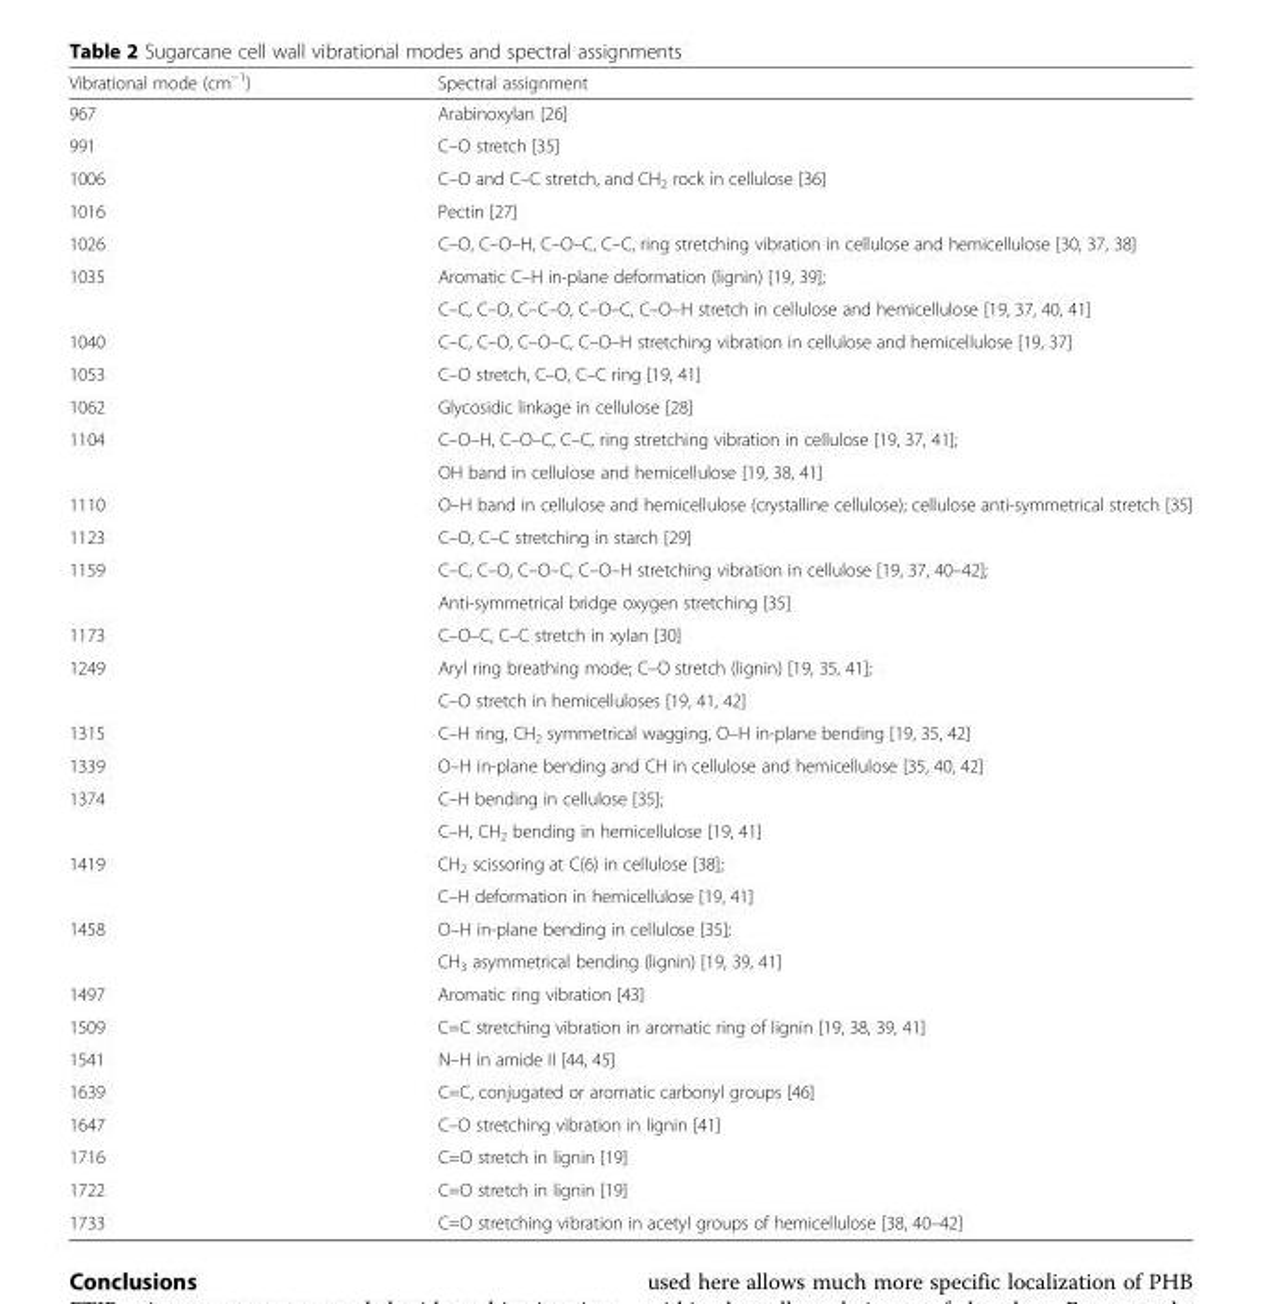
<table><thead><tr><td>Vibrational mode (cm<sup>−1</sup>)</td><td>Spectral assignment</td></tr></thead><tbody><tr><td>967</td><td>Arabinoxylan [26]</td></tr><tr><td>991</td><td>C–O stretch [35]</td></tr><tr><td>1006</td><td>C–O and C–C stretch, and CH<sub>2</sub> rock in cellulose [36]</td></tr><tr><td>1016</td><td>Pectin [27]</td></tr><tr><td>1026</td><td>C–O, C–O–H, C–O–C, C–C, ring stretching vibration in cellulose and hemicellulose [30, 37, 38]</td></tr><tr><td rowspan="2">1035</td><td>Aromatic C–H in-plane deformation (lignin) [19, 39];</td></tr><tr><td>C–C, C–O, C–C–O, C–O–C, C–O–H stretch in cellulose and hemicellulose [19, 37, 40, 41]</td></tr><tr><td>1040</td><td>C–C, C–O, C–O–C, C–O–H stretching vibration in cellulose and hemicellulose [19, 37]</td></tr><tr><td>1053</td><td>C–O stretch, C–O, C–C ring [19, 41]</td></tr><tr><td>1062</td><td>Glycosidic linkage in cellulose [28]</td></tr><tr><td rowspan="2">1104</td><td>C–O–H, C–O–C, C–C, ring stretching vibration in cellulose [19, 37, 41];</td></tr><tr><td>OH band in cellulose and hemicellulose [19, 38, 41]</td></tr><tr><td>1110</td><td>O–H band in cellulose and hemicellulose (crystalline cellulose); cellulose anti-symmetrical stretch [35]</td></tr><tr><td>1123</td><td>C–O, C–C stretching in starch [29]</td></tr><tr><td rowspan="2">1159</td><td>C–C, C–O, C–O–C, C–O–H stretching vibration in cellulose [19, 37, 40–42];</td></tr><tr><td>Anti-symmetrical bridge oxygen stretching [35]</td></tr><tr><td>1173</td><td>C–O–C, C–C stretch in xylan [30]</td></tr><tr><td rowspan="2">1249</td><td>Aryl ring breathing mode; C–O stretch (lignin) [19, 35, 41];</td></tr><tr><td>C–O stretch in hemicelluloses [19, 41, 42]</td></tr><tr><td>1315</td><td>C–H ring, CH<sub>2</sub> symmetrical wagging, O–H in-plane bending [19, 35, 42]</td></tr><tr><td>1339</td><td>O–H in-plane bending and CH in cellulose and hemicellulose [35, 40, 42]</td></tr><tr><td rowspan="2">1374</td><td>C–H bending in cellulose [35];</td></tr><tr><td>C–H, CH<sub>2</sub> bending in hemicellulose [19, 41]</td></tr><tr><td rowspan="2">1419</td><td>CH<sub>2</sub> scissoring at C(6) in cellulose [38];</td></tr><tr><td>C–H deformation in hemicellulose [19, 41]</td></tr><tr><td rowspan="2">1458</td><td>O–H in-plane bending in cellulose [35];</td></tr><tr><td>CH<sub>3</sub> asymmetrical bending (lignin) [19, 39, 41]</td></tr><tr><td>1497</td><td>Aromatic ring vibration [43]</td></tr><tr><td>1509</td><td>C=C stretching vibration in aromatic ring of lignin [19, 38, 39, 41]</td></tr><tr><td>1541</td><td>N–H in amide II [44, 45]</td></tr><tr><td>1639</td><td>C=C, conjugated or aromatic carbonyl groups [46]</td></tr><tr><td>1647</td><td>C–O stretching vibration in lignin [41]</td></tr><tr><td>1716</td><td>C=O stretch in lignin [19]</td></tr><tr><td>1722</td><td>C=O stretch in lignin [19]</td></tr><tr><td>1733</td><td>C=O stretching vibration in acetyl groups of hemicellulose [38, 40–42]</td></tr></tbody></table>